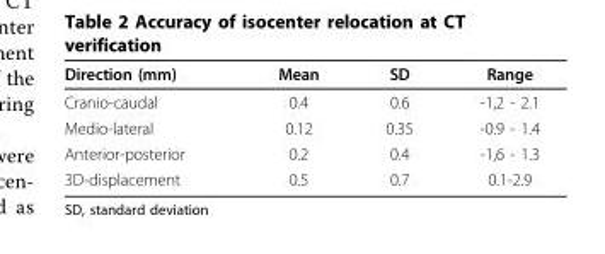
<table><thead><tr><td>Direction (mm)</td><td>Mean</td><td>SD</td><td>Range</td></tr></thead><tbody><tr><td>Cranio-caudal</td><td>0.4</td><td>0.6</td><td>-1,2 - 2.1</td></tr><tr><td>Medio-lateral</td><td>0.12</td><td>0.35</td><td>-0.9 - 1.4</td></tr><tr><td>Anterior-posterior</td><td>0.2</td><td>0.4</td><td>-1,6 - 1.3</td></tr><tr><td>3D-displacement</td><td>0.5</td><td>0.7</td><td>0.1-2.9</td></tr></tbody></table>